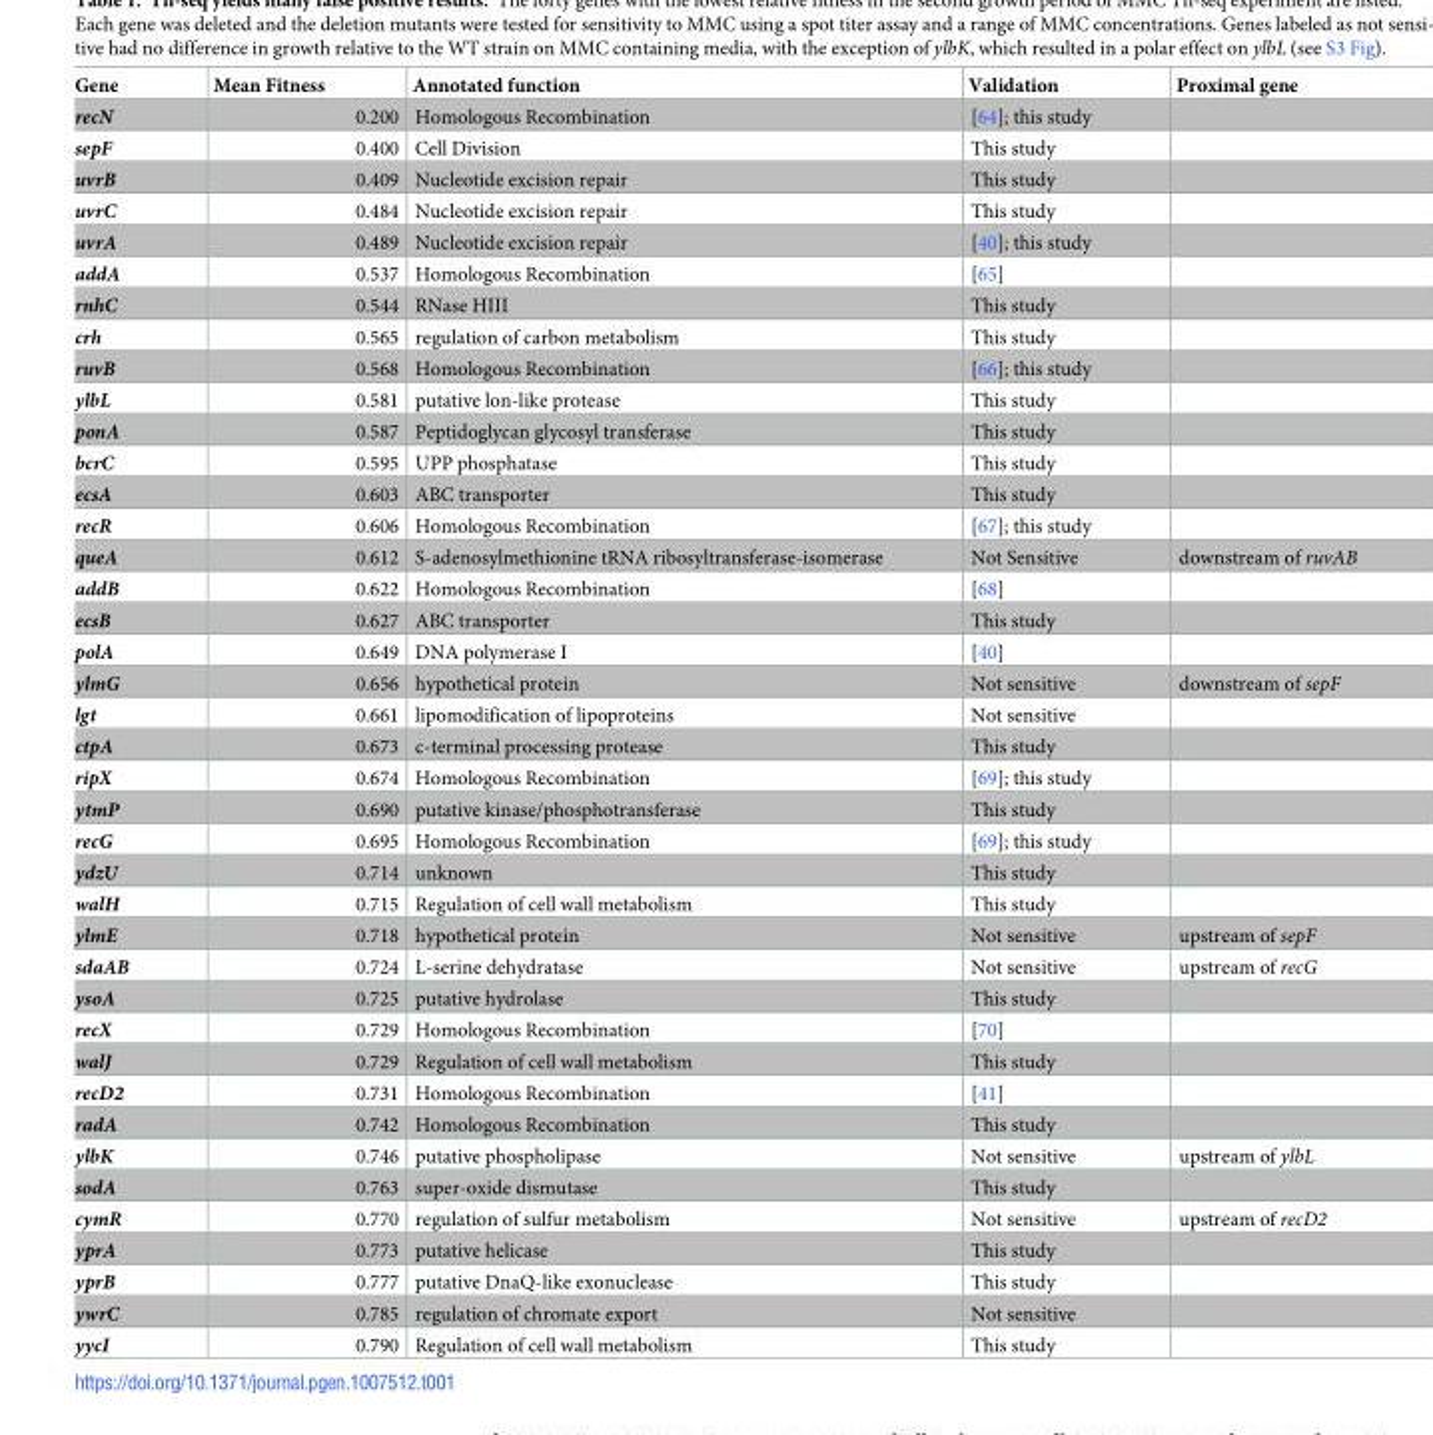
<table><thead><tr><td>Gene</td><td>Mean Fitness</td><td>Annotated function</td><td>Validation</td><td>Proximal gene</td></tr></thead><tbody><tr><td>recN</td><td>0.200</td><td>Homologous Recombination</td><td>[64]; this study</td><td></td></tr><tr><td>sepF</td><td>0.400</td><td>Cell Division</td><td>This study</td><td></td></tr><tr><td>uvrB</td><td>0.409</td><td>Nucleotide excision repair</td><td>This study</td><td></td></tr><tr><td>uvrC</td><td>0.484</td><td>Nucleotide excision repair</td><td>This study</td><td></td></tr><tr><td>uvrA</td><td>0.489</td><td>Nucleotide excision repair</td><td>[40]; this study</td><td></td></tr><tr><td>addA</td><td>0.537</td><td>Homologous Recombination</td><td>[65]</td><td></td></tr><tr><td>rnhC</td><td>0.544</td><td>RNase HIII</td><td>This study</td><td></td></tr><tr><td>crh</td><td>0.565</td><td>regulation of carbon metabolism</td><td>This study</td><td></td></tr><tr><td>ruvB</td><td>0.568</td><td>Homologous Recombination</td><td>[66]; this study</td><td></td></tr><tr><td>ylbL</td><td>0.581</td><td>putative lon-like protease</td><td>This study</td><td></td></tr><tr><td>ponA</td><td>0.587</td><td>Peptidoglycan glycosyl transferase</td><td>This study</td><td></td></tr><tr><td>bcrC</td><td>0.595</td><td>UPP phosphatase</td><td>This study</td><td></td></tr><tr><td>ecsA</td><td>0.603</td><td>ABC transporter</td><td>This study</td><td></td></tr><tr><td>recR</td><td>0.606</td><td>Homologous Recombination</td><td>[67]; this study</td><td></td></tr><tr><td>queA</td><td>0.612</td><td>S-adenosylmethionine tRNA ribosyltransferase-isomerase</td><td>Not Sensitive</td><td>downstream of ruvAB</td></tr><tr><td>addB</td><td>0.622</td><td>Homologous Recombination</td><td>[68]</td><td></td></tr><tr><td>ecsB</td><td>0.627</td><td>ABC transporter</td><td>This study</td><td></td></tr><tr><td>polA</td><td>0.649</td><td>DNA polymerase I</td><td>[40]</td><td></td></tr><tr><td>ylmG</td><td>0.656</td><td>hypothetical protein</td><td>Not sensitive</td><td>downstream of sepF</td></tr><tr><td>lgt</td><td>0.661</td><td>lipomodification of lipoproteins</td><td>Not sensitive</td><td></td></tr><tr><td>ctpA</td><td>0.673</td><td>c-terminal processing protease</td><td>This study</td><td></td></tr><tr><td>ripX</td><td>0.674</td><td>Homologous Recombination</td><td>[69]; this study</td><td></td></tr><tr><td>ytmP</td><td>0.690</td><td>putative kinase/phosphotransferase</td><td>This study</td><td></td></tr><tr><td>recG</td><td>0.695</td><td>Homologous Recombination</td><td>[69]; this study</td><td></td></tr><tr><td>ydzU</td><td>0.714</td><td>unknown</td><td>This study</td><td></td></tr><tr><td>walH</td><td>0.715</td><td>Regulation of cell wall metabolism</td><td>This study</td><td></td></tr><tr><td>ylmE</td><td>0.718</td><td>hypothetical protein</td><td>Not sensitive</td><td>upstream of sepF</td></tr><tr><td>sdaAB</td><td>0.724</td><td>L-serine dehydratase</td><td>Not sensitive</td><td>upstream of recG</td></tr><tr><td>ysoA</td><td>0.725</td><td>putative hydrolase</td><td>This study</td><td></td></tr><tr><td>recX</td><td>0.729</td><td>Homologous Recombination</td><td>[70]</td><td></td></tr><tr><td>walJ</td><td>0.729</td><td>Regulation of cell wall metabolism</td><td>This study</td><td></td></tr><tr><td>recD2</td><td>0.731</td><td>Homologous Recombination</td><td>[41]</td><td></td></tr><tr><td>radA</td><td>0.742</td><td>Homologous Recombination</td><td>This study</td><td></td></tr><tr><td>ylbK</td><td>0.746</td><td>putative phospholipase</td><td>Not sensitive</td><td>upstream of ylbL</td></tr><tr><td>sodA</td><td>0.763</td><td>super-oxide dismutase</td><td>This study</td><td></td></tr><tr><td>cymR</td><td>0.770</td><td>regulation of sulfur metabolism</td><td>Not sensitive</td><td>upstream of recD2</td></tr><tr><td>yprA</td><td>0.773</td><td>putative helicase</td><td>This study</td><td></td></tr><tr><td>yprB</td><td>0.777</td><td>putative DnaQ-like exonuclease</td><td>This study</td><td></td></tr><tr><td>ywrC</td><td>0.785</td><td>regulation of chromate export</td><td>Not sensitive</td><td></td></tr><tr><td>yycI</td><td>0.790</td><td>Regulation of cell wall metabolism</td><td>This study</td><td></td></tr></tbody></table>